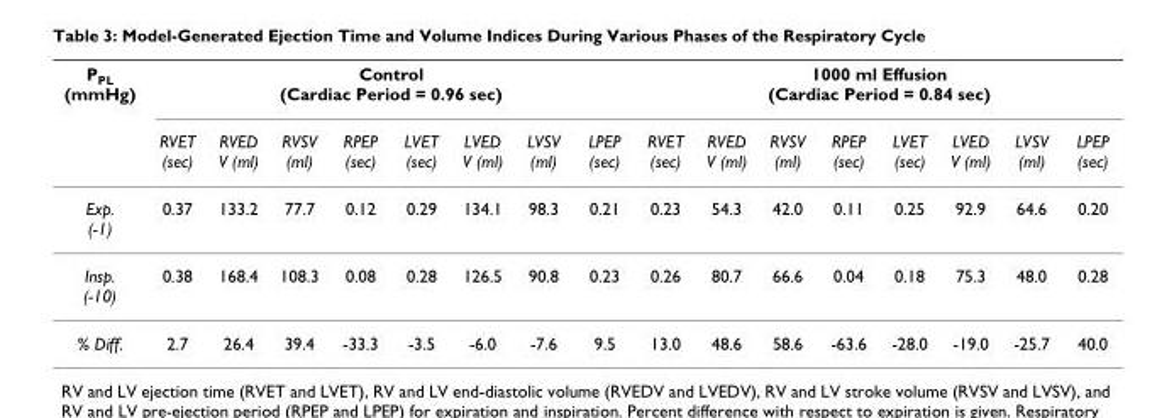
<table><thead><tr><td rowspan="2">P<sub>PL</sub> (mmHg)</td><td colspan="8">Control (Cardiac Period = 0.96 sec)</td><td colspan="8">1000 ml Effusion (Cardiac Period = 0.84 sec)</td></tr><tr><td>RVET (sec)</td><td>RVED V (ml)</td><td>RVSV (ml)</td><td>RPEP (sec)</td><td>LVET (sec)</td><td>LVED V (ml)</td><td>LVSV (ml)</td><td>LPEP (sec)</td><td>RVET (sec)</td><td>RVED V (ml)</td><td>RVSV (ml)</td><td>RPEP (sec)</td><td>LVET (sec)</td><td>LVED V (ml)</td><td>LVSV (ml)</td><td>LPEP (sec)</td></tr></thead><tbody><tr><td>Exp. (-1)</td><td>0.37</td><td>133.2</td><td>77.7</td><td>0.12</td><td>0.29</td><td>134.1</td><td>98.3</td><td>0.21</td><td>0.23</td><td>54.3</td><td>42.0</td><td>0.11</td><td>0.25</td><td>92.9</td><td>64.6</td><td>0.20</td></tr><tr><td>Insp. (-10)</td><td>0.38</td><td>168.4</td><td>108.3</td><td>0.08</td><td>0.28</td><td>126.5</td><td>90.8</td><td>0.23</td><td>0.26</td><td>80.7</td><td>66.6</td><td>0.04</td><td>0.18</td><td>75.3</td><td>48.0</td><td>0.28</td></tr><tr><td>% Diff.</td><td>2.7</td><td>26.4</td><td>39.4</td><td>-33.3</td><td>-3.5</td><td>-6.0</td><td>-7.6</td><td>9.5</td><td>13.0</td><td>48.6</td><td>58.6</td><td>-63.6</td><td>-28.0</td><td>-19.0</td><td>-25.7</td><td>40.0</td></tr></tbody></table>